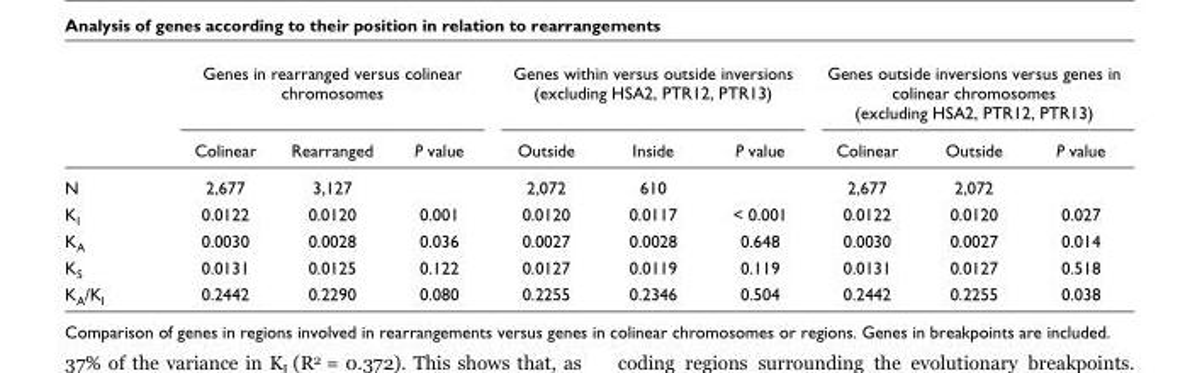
<table><thead><tr><td rowspan="2"></td><td colspan="3">Genes in rearranged versus colinear chromosomes</td><td colspan="3">Genes within versus outside inversions (excluding HSA2, PTR12, PTR13)</td><td colspan="3">Genes outside inversions versus genes in colinear chromosomes (excluding HSA2, PTR12, PTR13)</td></tr><tr><td>Colinear</td><td>Rearranged</td><td>P value</td><td>Outside</td><td>Inside</td><td>P value</td><td>Colinear</td><td>Outside</td><td>P value</td></tr></thead><tbody><tr><td>N</td><td>2,677</td><td>3,127</td><td></td><td>2,072</td><td>610</td><td></td><td>2,677</td><td>2,072</td><td></td></tr><tr><td>K<sub>I</sub></td><td>0.0122</td><td>0.0120</td><td>0.001</td><td>0.0120</td><td>0.0117</td><td>&lt; 0.001</td><td>0.0122</td><td>0.0120</td><td>0.027</td></tr><tr><td>K<sub>A</sub></td><td>0.0030</td><td>0.0028</td><td>0.036</td><td>0.0027</td><td>0.0028</td><td>0.648</td><td>0.0030</td><td>0.0027</td><td>0.014</td></tr><tr><td>K<sub>S</sub></td><td>0.0131</td><td>0.0125</td><td>0.122</td><td>0.0127</td><td>0.0119</td><td>0.119</td><td>0.0131</td><td>0.0127</td><td>0.518</td></tr><tr><td>K<sub>A</sub>/K<sub>I</sub></td><td>0.2442</td><td>0.2290</td><td>0.080</td><td>0.2255</td><td>0.2346</td><td>0.504</td><td>0.2442</td><td>0.2255</td><td>0.038</td></tr></tbody></table>